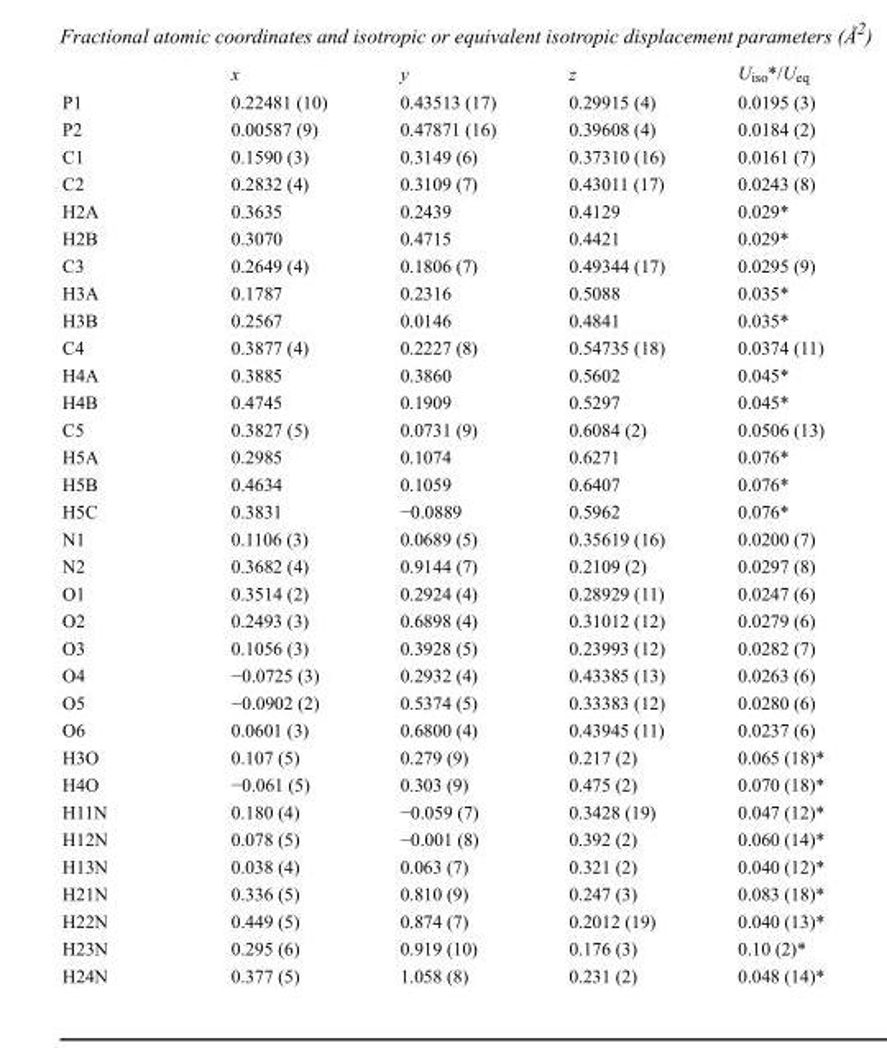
<table><thead><tr><td></td><td>x</td><td>y</td><td>z</td><td>U<sub>iso</sub>*/U<sub>eq</sub></td></tr></thead><tbody><tr><td>P1</td><td>0.22481 (10)</td><td>0.43513 (17)</td><td>0.29915 (4)</td><td>0.0195 (3)</td></tr><tr><td>P2</td><td>0.00587 (9)</td><td>0.47871 (16)</td><td>0.39608 (4)</td><td>0.0184 (2)</td></tr><tr><td>C1</td><td>0.1590 (3)</td><td>0.3149 (6)</td><td>0.37310 (16)</td><td>0.0161 (7)</td></tr><tr><td>C2</td><td>0.2832 (4)</td><td>0.3109 (7)</td><td>0.43011 (17)</td><td>0.0243 (8)</td></tr><tr><td>H2A</td><td>0.3635</td><td>0.2439</td><td>0.4129</td><td>0.029*</td></tr><tr><td>H2B</td><td>0.3070</td><td>0.4715</td><td>0.4421</td><td>0.029*</td></tr><tr><td>C3</td><td>0.2649 (4)</td><td>0.1806 (7)</td><td>0.49344 (17)</td><td>0.0295 (9)</td></tr><tr><td>H3A</td><td>0.1787</td><td>0.2316</td><td>0.5088</td><td>0.035*</td></tr><tr><td>H3B</td><td>0.2567</td><td>0.0146</td><td>0.4841</td><td>0.035*</td></tr><tr><td>C4</td><td>0.3877 (4)</td><td>0.2227 (8)</td><td>0.54735 (18)</td><td>0.0374 (11)</td></tr><tr><td>H4A</td><td>0.3885</td><td>0.3860</td><td>0.5602</td><td>0.045*</td></tr><tr><td>H4B</td><td>0.4745</td><td>0.1909</td><td>0.5297</td><td>0.045*</td></tr><tr><td>C5</td><td>0.3827 (5)</td><td>0.0731 (9)</td><td>0.6084 (2)</td><td>0.0506 (13)</td></tr><tr><td>H5A</td><td>0.2985</td><td>0.1074</td><td>0.6271</td><td>0.076*</td></tr><tr><td>H5B</td><td>0.4634</td><td>0.1059</td><td>0.6407</td><td>0.076*</td></tr><tr><td>H5C</td><td>0.3831</td><td>−0.0889</td><td>0.5962</td><td>0.076*</td></tr><tr><td>N1</td><td>0.1106 (3)</td><td>0.0689 (5)</td><td>0.35619 (16)</td><td>0.0200 (7)</td></tr><tr><td>N2</td><td>0.3682 (4)</td><td>0.9144 (7)</td><td>0.2109 (2)</td><td>0.0297 (8)</td></tr><tr><td>O1</td><td>0.3514 (2)</td><td>0.2924 (4)</td><td>0.28929 (11)</td><td>0.0247 (6)</td></tr><tr><td>O2</td><td>0.2493 (3)</td><td>0.6898 (4)</td><td>0.31012 (12)</td><td>0.0279 (6)</td></tr><tr><td>O3</td><td>0.1056 (3)</td><td>0.3928 (5)</td><td>0.23993 (12)</td><td>0.0282 (7)</td></tr><tr><td>O4</td><td>−0.0725 (3)</td><td>0.2932 (4)</td><td>0.43385 (13)</td><td>0.0263 (6)</td></tr><tr><td>O5</td><td>−0.0902 (2)</td><td>0.5374 (5)</td><td>0.33383 (12)</td><td>0.0280 (6)</td></tr><tr><td>O6</td><td>0.0601 (3)</td><td>0.6800 (4)</td><td>0.43945 (11)</td><td>0.0237 (6)</td></tr><tr><td>H3O</td><td>0.107 (5)</td><td>0.279 (9)</td><td>0.217 (2)</td><td>0.065 (18)*</td></tr><tr><td>H4O</td><td>−0.061 (5)</td><td>0.303 (9)</td><td>0.475 (2)</td><td>0.070 (18)*</td></tr><tr><td>H11N</td><td>0.180 (4)</td><td>−0.059 (7)</td><td>0.3428 (19)</td><td>0.047 (12)*</td></tr><tr><td>H12N</td><td>0.078 (5)</td><td>−0.001 (8)</td><td>0.392 (2)</td><td>0.060 (14)*</td></tr><tr><td>H13N</td><td>0.038 (4)</td><td>0.063 (7)</td><td>0.321 (2)</td><td>0.040 (12)*</td></tr><tr><td>H21N</td><td>0.336 (5)</td><td>0.810 (9)</td><td>0.247 (3)</td><td>0.083 (18)*</td></tr><tr><td>H22N</td><td>0.449 (5)</td><td>0.874 (7)</td><td>0.2012 (19)</td><td>0.040 (13)*</td></tr><tr><td>H23N</td><td>0.295 (6)</td><td>0.919 (10)</td><td>0.176 (3)</td><td>0.10 (2)*</td></tr><tr><td>H24N</td><td>0.377 (5)</td><td>1.058 (8)</td><td>0.231 (2)</td><td>0.048 (14)*</td></tr></tbody></table>